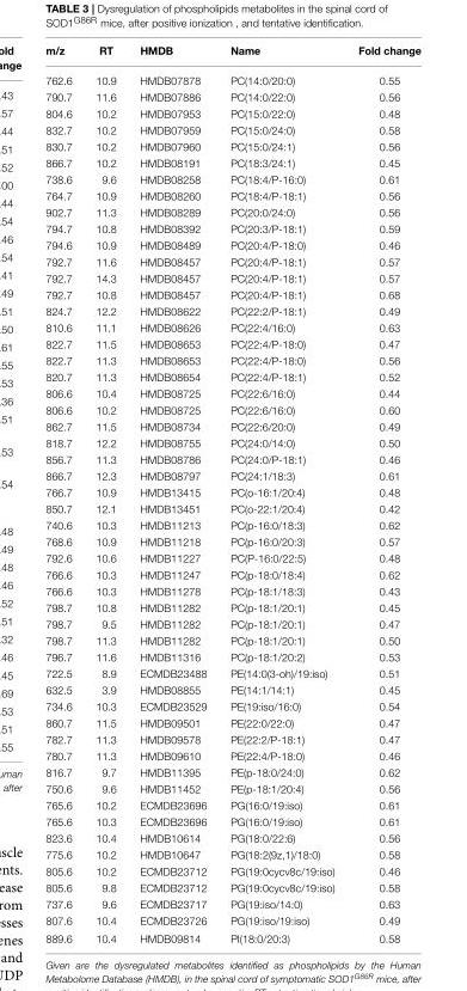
<table><thead><tr><td>m/z</td><td>RT</td><td>HMDB</td><td>Name</td><td>Fold change</td></tr></thead><tbody><tr><td>762.6</td><td>10.9</td><td>HMDB07878</td><td>PC(14:0/20:0)</td><td>0.55</td></tr><tr><td>790.7</td><td>11.6</td><td>HMDB07886</td><td>PC(14:0/22:0)</td><td>0.56</td></tr><tr><td>804.6</td><td>10.2</td><td>HMDB07953</td><td>PC(15:0/22:0)</td><td>0.48</td></tr><tr><td>832.7</td><td>10.2</td><td>HMDB07959</td><td>PC(15:0/24:0)</td><td>0.58</td></tr><tr><td>830.7</td><td>10.2</td><td>HMDB07960</td><td>PC(15:0/24:1)</td><td>0.56</td></tr><tr><td>866.7</td><td>10.2</td><td>HMDB08191</td><td>PC(18:3/24:1)</td><td>0.45</td></tr><tr><td>738.6</td><td>9.6</td><td>HMDB08258</td><td>PC(18:4/P-16:0)</td><td>0.61</td></tr><tr><td>764.7</td><td>10.9</td><td>HMDB08260</td><td>PC(18:4/P-18:1)</td><td>0.56</td></tr><tr><td>902.7</td><td>11.3</td><td>HMDB08289</td><td>PC(20:0/24:0)</td><td>0.56</td></tr><tr><td>794.7</td><td>10.8</td><td>HMDB08392</td><td>PC(20:3/P-18:1)</td><td>0.59</td></tr><tr><td>794.6</td><td>10.9</td><td>HMDB08489</td><td>PC(20:4/P-18:0)</td><td>0.46</td></tr><tr><td>792.7</td><td>11.6</td><td>HMDB08457</td><td>PC(20:4/P-18:1)</td><td>0.57</td></tr><tr><td>792.7</td><td>14.3</td><td>HMDB08457</td><td>PC(20:4/P-18:1)</td><td>0.57</td></tr><tr><td>792.7</td><td>10.8</td><td>HMDB08457</td><td>PC(20:4/P-18:1)</td><td>0.68</td></tr><tr><td>824.7</td><td>12.2</td><td>HMDB08622</td><td>PC(22:2/P-18:1)</td><td>0.49</td></tr><tr><td>810.6</td><td>11.1</td><td>HMDB08626</td><td>PC(22:4/16:0)</td><td>0.63</td></tr><tr><td>822.7</td><td>11.5</td><td>HMDB08653</td><td>PC(22:4/P-18:0)</td><td>0.47</td></tr><tr><td>822.7</td><td>11.3</td><td>HMDB08653</td><td>PC(22:4/P-18:0)</td><td>0.56</td></tr><tr><td>820.7</td><td>11.3</td><td>HMDB08654</td><td>PC(22:4/P-18:1)</td><td>0.52</td></tr><tr><td>806.6</td><td>10.4</td><td>HMDB08725</td><td>PC(22:6/16:0)</td><td>0.44</td></tr><tr><td>806.6</td><td>10.2</td><td>HMDB08725</td><td>PC(22:6/16:0)</td><td>0.60</td></tr><tr><td>862.7</td><td>11.5</td><td>HMDB08734</td><td>PC(22:6/20:0)</td><td>0.49</td></tr><tr><td>818.7</td><td>12.2</td><td>HMDB08755</td><td>PC(24:0/14:0)</td><td>0.50</td></tr><tr><td>856.7</td><td>11.3</td><td>HMDB08786</td><td>PC(24:0/P-18:1)</td><td>0.46</td></tr><tr><td>866.7</td><td>12.3</td><td>HMDB08797</td><td>PC(24:1/18:3)</td><td>0.61</td></tr><tr><td>766.7</td><td>10.9</td><td>HMDB13415</td><td>PC(o-16:1/20:4)</td><td>0.48</td></tr><tr><td>850.7</td><td>12.1</td><td>HMDB13451</td><td>PC(o-22:1/20:4)</td><td>0.42</td></tr><tr><td>740.6</td><td>10.3</td><td>HMDB11213</td><td>PC(p-16:0/18:3)</td><td>0.62</td></tr><tr><td>768.6</td><td>10.9</td><td>HMDB11218</td><td>PC(p-16:0/20:3)</td><td>0.57</td></tr><tr><td>792.6</td><td>10.6</td><td>HMDB11227</td><td>PC(P-16:0/22:5)</td><td>0.48</td></tr><tr><td>766.6</td><td>10.3</td><td>HMDB11247</td><td>PC(p-18:0/18:4)</td><td>0.62</td></tr><tr><td>766.6</td><td>10.3</td><td>HMDB11278</td><td>PC(p-18:1/18:3)</td><td>0.43</td></tr><tr><td>798.7</td><td>10.8</td><td>HMDB11282</td><td>PC(p-18:1/20:1)</td><td>0.45</td></tr><tr><td>798.7</td><td>9.5</td><td>HMDB11282</td><td>PC(p-18:1/20:1)</td><td>0.47</td></tr><tr><td>798.7</td><td>11.3</td><td>HMDB11282</td><td>PC(p-18:1/20:1)</td><td>0.50</td></tr><tr><td>796.7</td><td>11.6</td><td>HMDB11316</td><td>PC(p-18:1/20:2)</td><td>0.53</td></tr><tr><td>722.5</td><td>8.9</td><td>ECMDB23488</td><td>PE(14:0(3-oh)/19:iso)</td><td>0.51</td></tr><tr><td>632.5</td><td>3.9</td><td>HMDB08855</td><td>PE(14:1/14:1)</td><td>0.45</td></tr><tr><td>734.6</td><td>10.3</td><td>ECMDB23529</td><td>PE(19:iso/16:0)</td><td>0.54</td></tr><tr><td>860.7</td><td>11.5</td><td>HMDB09501</td><td>PE(22:0/22:0)</td><td>0.47</td></tr><tr><td>782.7</td><td>11.3</td><td>HMDB09578</td><td>PE(22:2/P-18:1)</td><td>0.47</td></tr><tr><td>780.7</td><td>11.3</td><td>HMDB09610</td><td>PE(22:4/P-18:0)</td><td>0.46</td></tr><tr><td>816.7</td><td>9.7</td><td>HMDB11395</td><td>PE(p-18:0/24:0)</td><td>0.62</td></tr><tr><td>750.6</td><td>9.6</td><td>HMDB11452</td><td>PE(p-18:1/20:4)</td><td>0.56</td></tr><tr><td>765.6</td><td>10.2</td><td>ECMDB23696</td><td>PG(16:0/19:iso)</td><td>0.61</td></tr><tr><td>765.6</td><td>10.3</td><td>ECMDB23696</td><td>PG(16:0/19:iso)</td><td>0.61</td></tr><tr><td>823.6</td><td>10.4</td><td>HMDB10614</td><td>PG(18:0/22:6)</td><td>0.56</td></tr><tr><td>775.6</td><td>10.2</td><td>HMDB10647</td><td>PG(18:2(9z,1)/18:0)</td><td>0.58</td></tr><tr><td>805.6</td><td>10.2</td><td>ECMDB23712</td><td>PG(19:0cycv8c/19:iso)</td><td>0.46</td></tr><tr><td>805.6</td><td>9.8</td><td>ECMDB23712</td><td>PG(19:0cycv8c/19:iso)</td><td>0.58</td></tr><tr><td>737.6</td><td>9.6</td><td>ECMDB23717</td><td>PG(19:iso/14:0)</td><td>0.63</td></tr><tr><td>807.6</td><td>10.4</td><td>ECMDB23726</td><td>PG(19:iso/19:iso)</td><td>0.49</td></tr><tr><td>889.6</td><td>10.4</td><td>HMDB09814</td><td>PI(18:0/20:3)</td><td>0.58</td></tr></tbody></table>